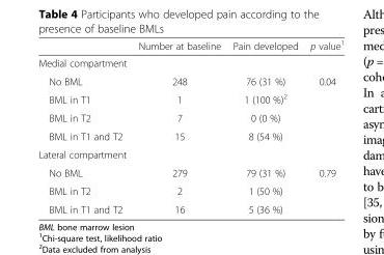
<table><thead><tr><td></td><td>Number at baseline</td><td>Pain developed</td><td>p value<sup>1</sup></td></tr></thead><tbody><tr><td colspan="4">Medial compartment</td></tr><tr><td>No BML</td><td>248</td><td>76 (31 %)</td><td rowspan="4">0.04</td></tr><tr><td>BML in T1</td><td>1</td><td>1 (100 %)<sup>2</sup></td></tr><tr><td>BML in T2</td><td>7</td><td>0 (0 %)</td></tr><tr><td>BML in T1 and T2</td><td>15</td><td>8 (54 %)</td></tr><tr><td colspan="4">Lateral compartment</td></tr><tr><td>No BML</td><td>279</td><td>79 (31 %)</td><td rowspan="3">0.79</td></tr><tr><td>BML in T2</td><td>2</td><td>1 (50 %)</td></tr><tr><td>BML in T1 and T2</td><td>16</td><td>5 (36 %)</td></tr></tbody></table>